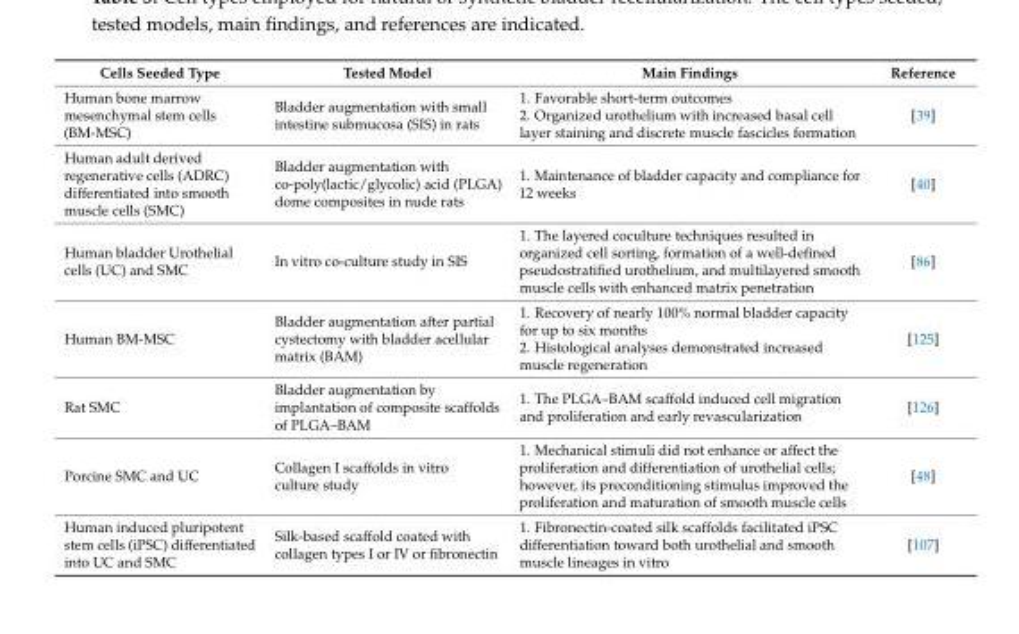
<table><thead><tr><td>Cells Seeded Type</td><td>Tested Model</td><td>Main Findings</td><td>Reference</td></tr></thead><tbody><tr><td>Human bone marrow mesenchymal stem cells (BM-MSC)</td><td>Bladder augmentation with small intestine submucosa (SIS) in rats</td><td>1. Favorable short-term outcomes 2. Organized urothelium with increased basal cell layer staining and discrete muscle fascicles formation</td><td>[39]</td></tr><tr><td>Human adult derived regenerative cells (ADRC) differentiated into smooth muscle cells (SMC)</td><td>Bladder augmentation with co-poly(lactic/glycolic) acid (PLGA) dome composites in nude rats</td><td>1. Maintenance of bladder capacity and compliance for 12 weeks</td><td>[40]</td></tr><tr><td>Human bladder Urothelial cells (UC) and SMC</td><td>In vitro co-culture study in SIS</td><td>1. The layered coculture techniques resulted in organized cell sorting, formation of a well-defined pseudostratified urothelium, and multilayered smooth muscle cells with enhanced matrix penetration</td><td>[86]</td></tr><tr><td>Human BM-MSC</td><td>Bladder augmentation after partial cystectomy with bladder acellular matrix (BAM)</td><td>1. Recovery of nearly 100% normal bladder capacity for up to six months 2. Histological analyses demonstrated increased muscle regeneration</td><td>[125]</td></tr><tr><td>Rat SMC</td><td>Bladder augmentation by implantation of composite scaffolds of PLGA–BAM</td><td>1. The PLGA–BAM scaffold induced cell migration and proliferation and early revascularization</td><td>[126]</td></tr><tr><td>Porcine SMC and UC</td><td>Collagen I scaffolds in vitro culture study</td><td>1. Mechanical stimuli did not enhance or affect the proliferation and differentiation of urothelial cells; however, its preconditioning stimulus improved the proliferation and maturation of smooth muscle cells</td><td>[48]</td></tr><tr><td>Human induced pluripotent stem cells (iPSC) differentiated into UC and SMC</td><td>Silk-based scaffold coated with collagen types I or IV or fibronectin</td><td>1. Fibronectin-coated silk scaffolds facilitated iPSC differentiation toward both urothelial and smooth muscle lineages in vitro</td><td>[107]</td></tr></tbody></table>